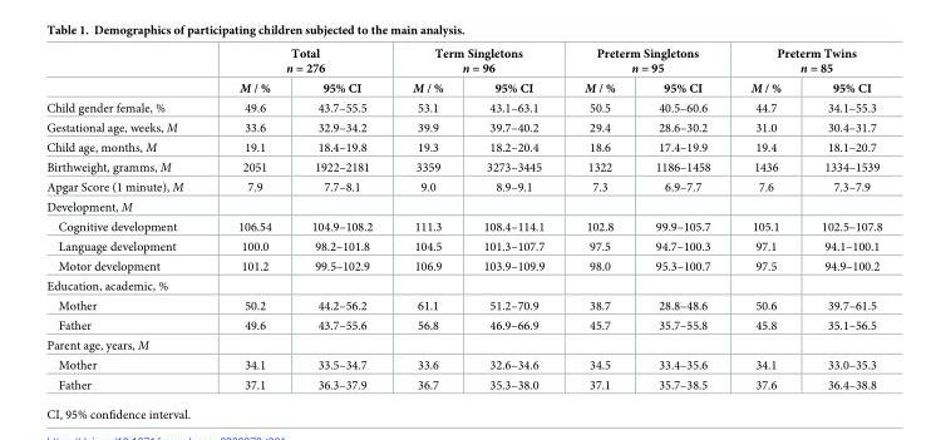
<table><thead><tr><td rowspan="2"></td><td colspan="2">Total n = 276</td><td colspan="2">Term Singletons n = 96</td><td colspan="2">Preterm Singletons n = 95</td><td colspan="2">Preterm Twins n = 85</td></tr><tr><td>M / %</td><td>95% CI</td><td>M / %</td><td>95% CI</td><td>M / %</td><td>95% CI</td><td>M / %</td><td>95% CI</td></tr></thead><tbody><tr><td>Child gender female, %</td><td>49.6</td><td>43.7–55.5</td><td>53.1</td><td>43.1–63.1</td><td>50.5</td><td>40.5–60.6</td><td>44.7</td><td>34.1–55.3</td></tr><tr><td>Gestational age, weeks, M</td><td>33.6</td><td>32.9–34.2</td><td>39.9</td><td>39.7–40.2</td><td>29.4</td><td>28.6–30.2</td><td>31.0</td><td>30.4–31.7</td></tr><tr><td>Child age, months, M</td><td>19.1</td><td>18.4–19.8</td><td>19.3</td><td>18.2–20.4</td><td>18.6</td><td>17.4–19.9</td><td>19.4</td><td>18.1–20.7</td></tr><tr><td>Birthweight, gramms, M</td><td>2051</td><td>1922–2181</td><td>3359</td><td>3273–3445</td><td>1322</td><td>1186–1458</td><td>1436</td><td>1334–1539</td></tr><tr><td>Apgar Score (1 minute), M</td><td>7.9</td><td>7.7–8.1</td><td>9.0</td><td>8.9–9.1</td><td>7.3</td><td>6.9–7.7</td><td>7.6</td><td>7.3–7.9</td></tr><tr><td colspan="9">Development, M</td></tr><tr><td>Cognitive development</td><td>106.54</td><td>104.9–108.2</td><td>111.3</td><td>108.4–114.1</td><td>102.8</td><td>99.9–105.7</td><td>105.1</td><td>102.5–107.8</td></tr><tr><td>Language development</td><td>100.0</td><td>98.2–101.8</td><td>104.5</td><td>101.3–107.7</td><td>97.5</td><td>94.7–100.3</td><td>97.1</td><td>94.1–100.1</td></tr><tr><td>Motor development</td><td>101.2</td><td>99.5–102.9</td><td>106.9</td><td>103.9–109.9</td><td>98.0</td><td>95.3–100.7</td><td>97.5</td><td>94.9–100.2</td></tr><tr><td colspan="9">Education, academic, %</td></tr><tr><td>Mother</td><td>50.2</td><td>44.2–56.2</td><td>61.1</td><td>51.2–70.9</td><td>38.7</td><td>28.8–48.6</td><td>50.6</td><td>39.7–61.5</td></tr><tr><td>Father</td><td>49.6</td><td>43.7–55.6</td><td>56.8</td><td>46.9–66.9</td><td>45.7</td><td>35.7–55.8</td><td>45.8</td><td>35.1–56.5</td></tr><tr><td colspan="9">Parent age, years, M</td></tr><tr><td>Mother</td><td>34.1</td><td>33.5–34.7</td><td>33.6</td><td>32.6–34.6</td><td>34.5</td><td>33.4–35.6</td><td>34.1</td><td>33.0–35.3</td></tr><tr><td>Father</td><td>37.1</td><td>36.3–37.9</td><td>36.7</td><td>35.3–38.0</td><td>37.1</td><td>35.7–38.5</td><td>37.6</td><td>36.4–38.8</td></tr></tbody></table>